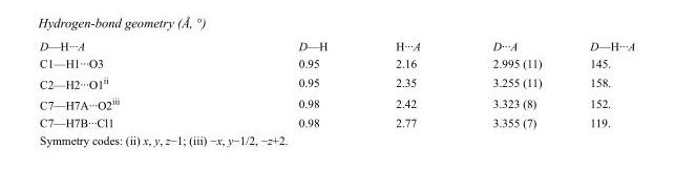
<table><tbody><tr><td>D—H···A</td><td>D—H</td><td>H···A</td><td>D···A</td><td>D—H···A</td></tr><tr><td>C1—H1···O3</td><td>0.95</td><td>2.16</td><td>2.995 (11)</td><td>145.</td></tr><tr><td>C2—H2···O1<sup>ii</sup></td><td>0.95</td><td>2.35</td><td>3.255 (11)</td><td>158.</td></tr><tr><td>C7—H7A···O2<sup>iii</sup></td><td>0.98</td><td>2.42</td><td>3.323 (8)</td><td>152.</td></tr><tr><td>C7—H7B···Cl1</td><td>0.98</td><td>2.77</td><td>3.355 (7)</td><td>119.</td></tr></tbody></table>